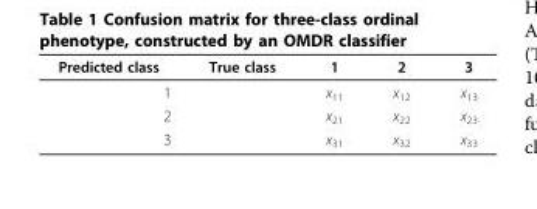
<table><thead><tr><td>Predicted class</td><td>True class</td><td>1</td><td>2</td><td>3</td></tr></thead><tbody><tr><td colspan="2">1</td><td>x<sub>11</sub></td><td>x<sub>12</sub></td><td>x<sub>13</sub></td></tr><tr><td colspan="2">2</td><td>x<sub>21</sub></td><td>x<sub>22</sub></td><td>x<sub>23</sub></td></tr><tr><td colspan="2">3</td><td>x<sub>31</sub></td><td>x<sub>32</sub></td><td>x<sub>33</sub></td></tr></tbody></table>